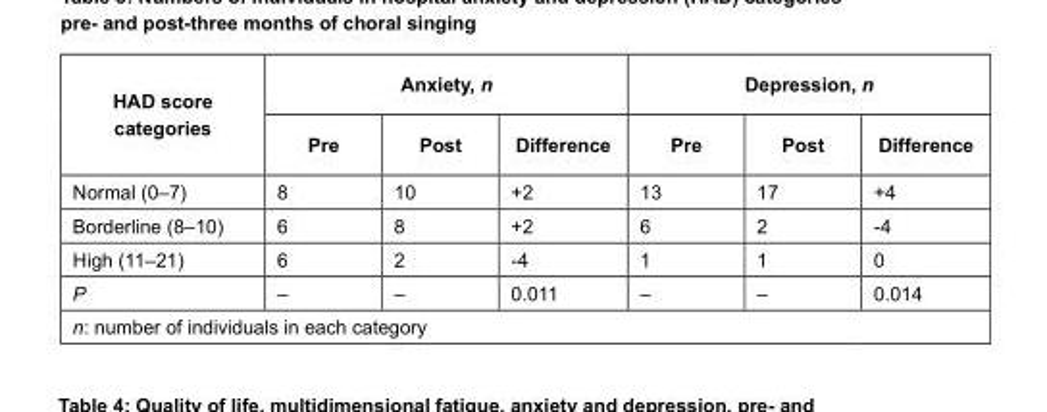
<table><thead><tr><td rowspan="2">HAD score categories</td><td colspan="3">Anxiety, n</td><td colspan="3">Depression, n</td></tr><tr><td>Pre</td><td>Post</td><td>Difference</td><td>Pre</td><td>Post</td><td>Difference</td></tr></thead><tbody><tr><td>Normal (0–7)</td><td>8</td><td>10</td><td>+2</td><td>13</td><td>17</td><td>+4</td></tr><tr><td>Borderline (8–10)</td><td>6</td><td>8</td><td>+2</td><td>6</td><td>2</td><td>-4</td></tr><tr><td>High (11–21)</td><td>6</td><td>2</td><td>-4</td><td>1</td><td>1</td><td>0</td></tr><tr><td>P</td><td>–</td><td>–</td><td>0.011</td><td>–</td><td>–</td><td>0.014</td></tr><tr><td colspan="7">n: number of individuals in each category</td></tr></tbody></table>